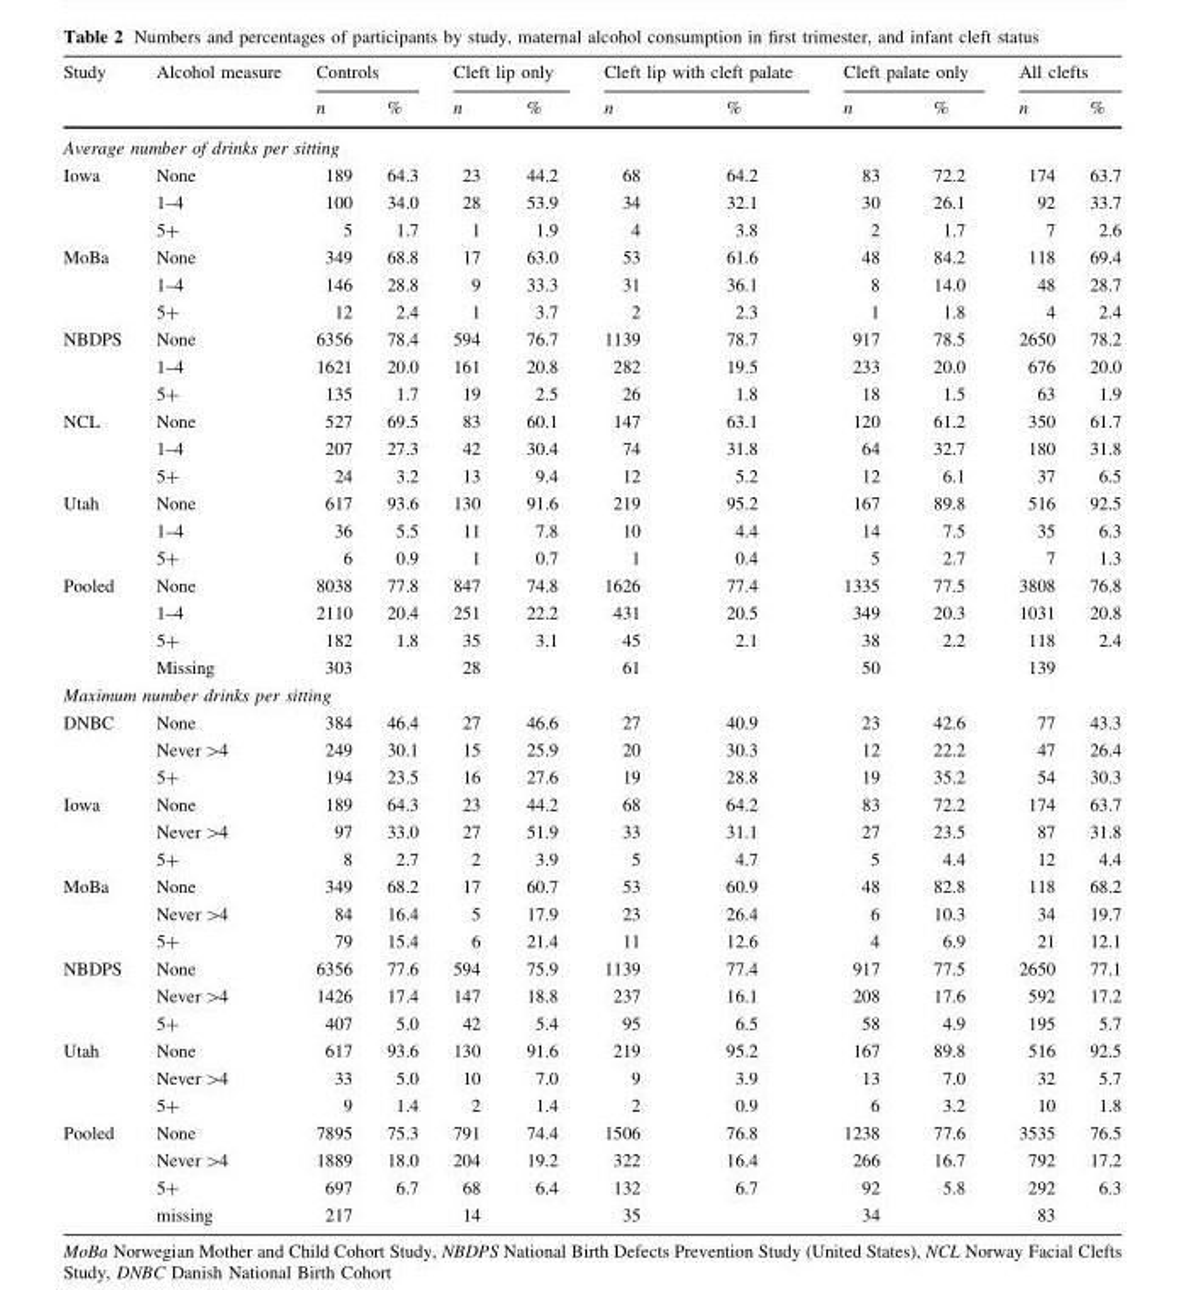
<table><thead><tr><td rowspan="2">Study</td><td rowspan="2">Alcohol measure</td><td colspan="2">Controls</td><td colspan="2">Cleft lip only</td><td colspan="2">Cleft lip with cleft palate</td><td colspan="2">Cleft palate only</td><td colspan="2">All clefts</td></tr><tr><td>n</td><td>%</td><td>n</td><td>%</td><td>n</td><td>%</td><td>n</td><td>%</td><td>n</td><td>%</td></tr></thead><tbody><tr><td colspan="12">Average number of drinks per sitting</td></tr><tr><td rowspan="3">Iowa</td><td>None</td><td>189</td><td>64.3</td><td>23</td><td>44.2</td><td>68</td><td>64.2</td><td>83</td><td>72.2</td><td>174</td><td>63.7</td></tr><tr><td>1–4</td><td>100</td><td>34.0</td><td>28</td><td>53.9</td><td>34</td><td>32.1</td><td>30</td><td>26.1</td><td>92</td><td>33.7</td></tr><tr><td>5+</td><td>5</td><td>1.7</td><td>1</td><td>1.9</td><td>4</td><td>3.8</td><td>2</td><td>1.7</td><td>7</td><td>2.6</td></tr><tr><td rowspan="3">MoBa</td><td>None</td><td>349</td><td>68.8</td><td>17</td><td>63.0</td><td>53</td><td>61.6</td><td>48</td><td>84.2</td><td>118</td><td>69.4</td></tr><tr><td>1–4</td><td>146</td><td>28.8</td><td>9</td><td>33.3</td><td>31</td><td>36.1</td><td>8</td><td>14.0</td><td>48</td><td>28.7</td></tr><tr><td>5+</td><td>12</td><td>2.4</td><td>1</td><td>3.7</td><td>2</td><td>2.3</td><td>1</td><td>1.8</td><td>4</td><td>2.4</td></tr><tr><td rowspan="3">NBDPS</td><td>None</td><td>6356</td><td>78.4</td><td>594</td><td>76.7</td><td>1139</td><td>78.7</td><td>917</td><td>78.5</td><td>2650</td><td>78.2</td></tr><tr><td>1–4</td><td>1621</td><td>20.0</td><td>161</td><td>20.8</td><td>282</td><td>19.5</td><td>233</td><td>20.0</td><td>676</td><td>20.0</td></tr><tr><td>5+</td><td>135</td><td>1.7</td><td>19</td><td>2.5</td><td>26</td><td>1.8</td><td>18</td><td>1.5</td><td>63</td><td>1.9</td></tr><tr><td rowspan="3">NCL</td><td>None</td><td>527</td><td>69.5</td><td>83</td><td>60.1</td><td>147</td><td>63.1</td><td>120</td><td>61.2</td><td>350</td><td>61.7</td></tr><tr><td>1–4</td><td>207</td><td>27.3</td><td>42</td><td>30.4</td><td>74</td><td>31.8</td><td>64</td><td>32.7</td><td>180</td><td>31.8</td></tr><tr><td>5+</td><td>24</td><td>3.2</td><td>13</td><td>9.4</td><td>12</td><td>5.2</td><td>12</td><td>6.1</td><td>37</td><td>6.5</td></tr><tr><td rowspan="3">Utah</td><td>None</td><td>617</td><td>93.6</td><td>130</td><td>91.6</td><td>219</td><td>95.2</td><td>167</td><td>89.8</td><td>516</td><td>92.5</td></tr><tr><td>1–4</td><td>36</td><td>5.5</td><td>11</td><td>7.8</td><td>10</td><td>4.4</td><td>14</td><td>7.5</td><td>35</td><td>6.3</td></tr><tr><td>5+</td><td>6</td><td>0.9</td><td>1</td><td>0.7</td><td>1</td><td>0.4</td><td>5</td><td>2.7</td><td>7</td><td>1.3</td></tr><tr><td rowspan="4">Pooled</td><td>None</td><td>8038</td><td>77.8</td><td>847</td><td>74.8</td><td>1626</td><td>77.4</td><td>1335</td><td>77.5</td><td>3808</td><td>76.8</td></tr><tr><td>1–4</td><td>2110</td><td>20.4</td><td>251</td><td>22.2</td><td>431</td><td>20.5</td><td>349</td><td>20.3</td><td>1031</td><td>20.8</td></tr><tr><td>5+</td><td>182</td><td>1.8</td><td>35</td><td>3.1</td><td>45</td><td>2.1</td><td>38</td><td>2.2</td><td>118</td><td>2.4</td></tr><tr><td>Missing</td><td>303</td><td></td><td>28</td><td></td><td>61</td><td></td><td>50</td><td></td><td>139</td><td></td></tr><tr><td colspan="12">Maximum number drinks per sitting</td></tr><tr><td rowspan="3">DNBC</td><td>None</td><td>384</td><td>46.4</td><td>27</td><td>46.6</td><td>27</td><td>40.9</td><td>23</td><td>42.6</td><td>77</td><td>43.3</td></tr><tr><td>Never &gt;4</td><td>249</td><td>30.1</td><td>15</td><td>25.9</td><td>20</td><td>30.3</td><td>12</td><td>22.2</td><td>47</td><td>26.4</td></tr><tr><td>5+</td><td>194</td><td>23.5</td><td>16</td><td>27.6</td><td>19</td><td>28.8</td><td>19</td><td>35.2</td><td>54</td><td>30.3</td></tr><tr><td rowspan="3">Iowa</td><td>None</td><td>189</td><td>64.3</td><td>23</td><td>44.2</td><td>68</td><td>64.2</td><td>83</td><td>72.2</td><td>174</td><td>63.7</td></tr><tr><td>Never &gt;4</td><td>97</td><td>33.0</td><td>27</td><td>51.9</td><td>33</td><td>31.1</td><td>27</td><td>23.5</td><td>87</td><td>31.8</td></tr><tr><td>5+</td><td>8</td><td>2.7</td><td>2</td><td>3.9</td><td>5</td><td>4.7</td><td>5</td><td>4.4</td><td>12</td><td>4.4</td></tr><tr><td rowspan="3">MoBa</td><td>None</td><td>349</td><td>68.2</td><td>17</td><td>60.7</td><td>53</td><td>60.9</td><td>48</td><td>82.8</td><td>118</td><td>68.2</td></tr><tr><td>Never &gt;4</td><td>84</td><td>16.4</td><td>5</td><td>17.9</td><td>23</td><td>26.4</td><td>6</td><td>10.3</td><td>34</td><td>19.7</td></tr><tr><td>5+</td><td>79</td><td>15.4</td><td>6</td><td>21.4</td><td>11</td><td>12.6</td><td>4</td><td>6.9</td><td>21</td><td>12.1</td></tr><tr><td rowspan="3">NBDPS</td><td>None</td><td>6356</td><td>77.6</td><td>594</td><td>75.9</td><td>1139</td><td>77.4</td><td>917</td><td>77.5</td><td>2650</td><td>77.1</td></tr><tr><td>Never &gt;4</td><td>1426</td><td>17.4</td><td>147</td><td>18.8</td><td>237</td><td>16.1</td><td>208</td><td>17.6</td><td>592</td><td>17.2</td></tr><tr><td>5+</td><td>407</td><td>5.0</td><td>42</td><td>5.4</td><td>95</td><td>6.5</td><td>58</td><td>4.9</td><td>195</td><td>5.7</td></tr><tr><td rowspan="3">Utah</td><td>None</td><td>617</td><td>93.6</td><td>130</td><td>91.6</td><td>219</td><td>95.2</td><td>167</td><td>89.8</td><td>516</td><td>92.5</td></tr><tr><td>Never &gt;4</td><td>33</td><td>5.0</td><td>10</td><td>7.0</td><td>9</td><td>3.9</td><td>13</td><td>7.0</td><td>32</td><td>5.7</td></tr><tr><td>5+</td><td>9</td><td>1.4</td><td>2</td><td>1.4</td><td>2</td><td>0.9</td><td>6</td><td>3.2</td><td>10</td><td>1.8</td></tr><tr><td rowspan="4">Pooled</td><td>None</td><td>7895</td><td>75.3</td><td>791</td><td>74.4</td><td>1506</td><td>76.8</td><td>1238</td><td>77.6</td><td>3535</td><td>76.5</td></tr><tr><td>Never &gt;4</td><td>1889</td><td>18.0</td><td>204</td><td>19.2</td><td>322</td><td>16.4</td><td>266</td><td>16.7</td><td>792</td><td>17.2</td></tr><tr><td>5+</td><td>697</td><td>6.7</td><td>68</td><td>6.4</td><td>132</td><td>6.7</td><td>92</td><td>5.8</td><td>292</td><td>6.3</td></tr><tr><td>missing</td><td>217</td><td></td><td>14</td><td></td><td>35</td><td></td><td>34</td><td></td><td>83</td><td></td></tr></tbody></table>